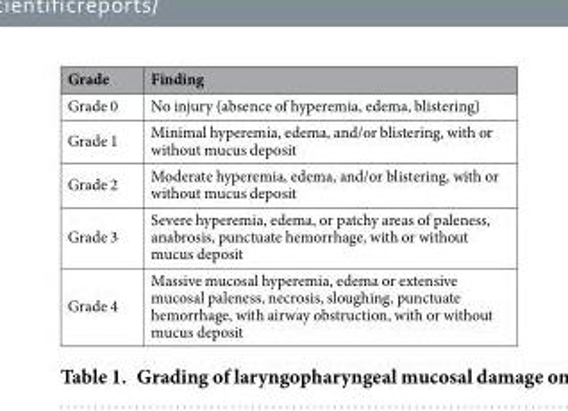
<table><thead><tr><td>Grade</td><td>Finding</td></tr></thead><tbody><tr><td>Grade 0</td><td>No injury (absence of hyperemia, edema, blistering)</td></tr><tr><td>Grade 1</td><td>Minimal hyperemia, edema, and/or blistering, with or without mucus deposit</td></tr><tr><td>Grade 2</td><td>Moderate hyperemia, edema, and/or blistering, with or without mucus deposit</td></tr><tr><td>Grade 3</td><td>Severe hyperemia, edema, or patchy areas of paleness, anabrosis, punctuate hemorrhage, with or without mucus deposit</td></tr><tr><td>Grade 4</td><td>Massive mucosal hyperemia, edema or extensive mucosal paleness, necrosis, sloughing, punctuate hemorrhage, with airway obstruction, with or without mucus deposit</td></tr></tbody></table>